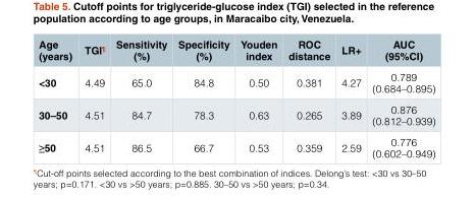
<table><thead><tr><td>Age (years)</td><td>TGI<sup>¶</sup></td><td>Sensitivity (%)</td><td>Specificity (%)</td><td>Youden index</td><td>ROC distance</td><td>LR+</td><td>AUC (95%CI)</td></tr></thead><tbody><tr><td>&lt;30</td><td>4.49</td><td>65.0</td><td>84.8</td><td>0.50</td><td>0.381</td><td>4.27</td><td>0.789 (0.684–0.895)</td></tr><tr><td>30–50</td><td>4.51</td><td>84.7</td><td>78.3</td><td>0.63</td><td>0.265</td><td>3.89</td><td>0.876 (0.812–0.939)</td></tr><tr><td>≥50</td><td>4.51</td><td>86.5</td><td>66.7</td><td>0.53</td><td>0.359</td><td>2.59</td><td>0.776 (0.602–0.949)</td></tr></tbody></table>